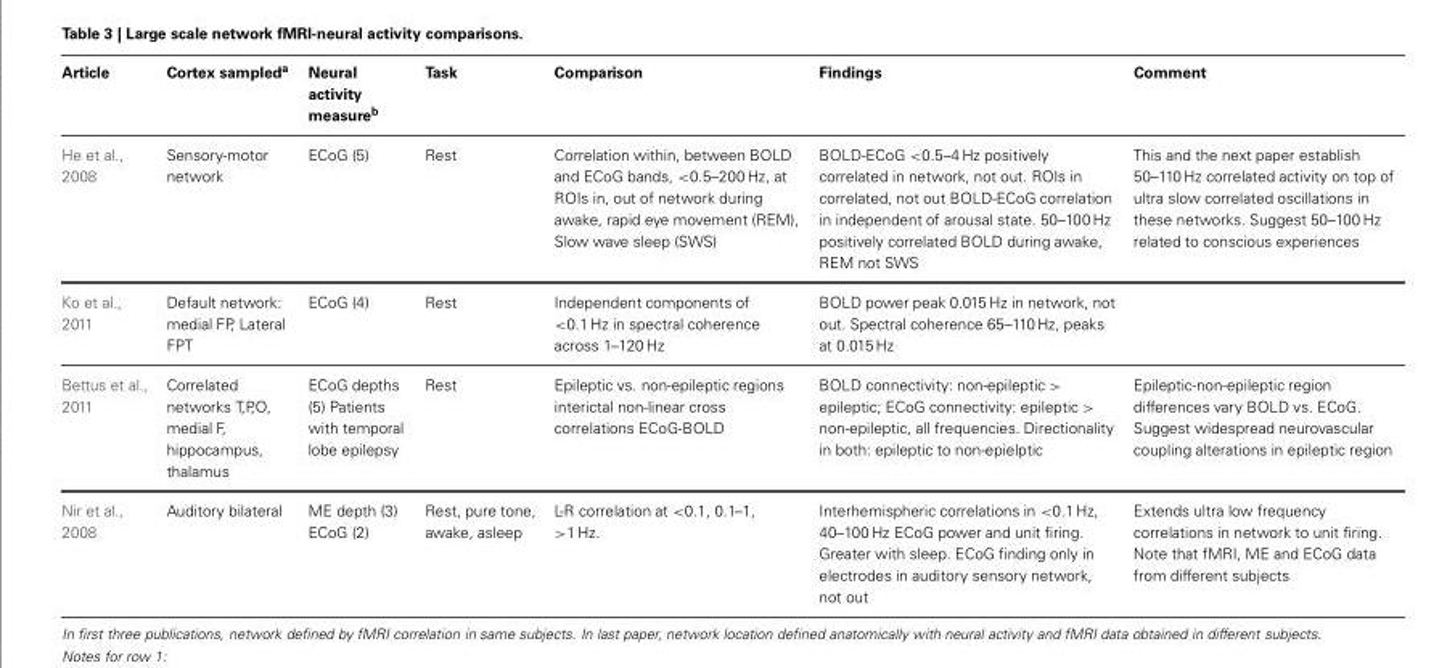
<table><thead><tr><td>Article</td><td>Cortex sampled<sup>a</sup></td><td>Neural activity measure<sup>b</sup></td><td>Task</td><td>Comparison</td><td>Findings</td><td>Comment</td></tr></thead><tbody><tr><td>He et al., 2008</td><td>Sensory-motor network</td><td>ECoG (5)</td><td>Rest</td><td>Correlation within, between BOLD and ECoG bands, &lt;0.5–200 Hz, at ROIs in, out of network during awake, rapid eye movement (REM), Slow wave sleep (SWS)</td><td>BOLD-ECoG &lt;0.5–4 Hz positively correlated in network, not out. ROIs in correlated, not out BOLD-ECoG correlation in independent of arousal state. 50–100 Hz positively correlated BOLD during awake, REM not SWS</td><td>This and the next paper establish 50–110Hz correlated activity on top of ultra slow correlated oscillations in these networks. Suggest 50–100 Hz related to conscious experiences</td></tr><tr><td>Ko et al., 2011</td><td>Default network: medial FP, Lateral FPT</td><td>ECoG (4)</td><td>Rest</td><td>Independent components of &lt;0.1 Hz in spectral coherence across 1–120 Hz</td><td>BOLD power peak 0.015 Hz in network, not out. Spectral coherence 65–110Hz, peaks at 0.015 Hz</td><td></td></tr><tr><td>Bettus et al., 2011</td><td>Correlated networks T,P,O, medial F, hippocampus, thalamus</td><td>ECoG depths (5) Patients with temporal lobe epilepsy</td><td>Rest</td><td>Epileptic vs. non-epileptic regions interictal non-linear cross correlations ECoG-BOLD</td><td>BOLD connectivity: non-epileptic &gt; epileptic; ECoG connectivity: epileptic &gt; non-epileptic, all frequencies. Directionality in both: epileptic to non-epielptic</td><td>Epileptic-non-epileptic region differences vary BOLD vs. ECoG. Suggest widespread neurovascular coupling alterations in epileptic region</td></tr><tr><td>Nir et al., 2008</td><td>Auditory bilateral</td><td>ME depth (3) ECoG (2)</td><td>Rest, pure tone, awake, asleep</td><td>L-R correlation at &lt;0.1, 0.1–1, &gt;1 Hz.</td><td>Interhemispheric correlations in &lt;0.1 Hz, 40–100 Hz ECoG power and unit firing. Greater with sleep. ECoG finding only in electrodes in auditory sensory network, not out</td><td>Extends ultra low frequency correlations in network to unit firing. Note that fMRI, ME and ECoG data from different subjects</td></tr></tbody></table>